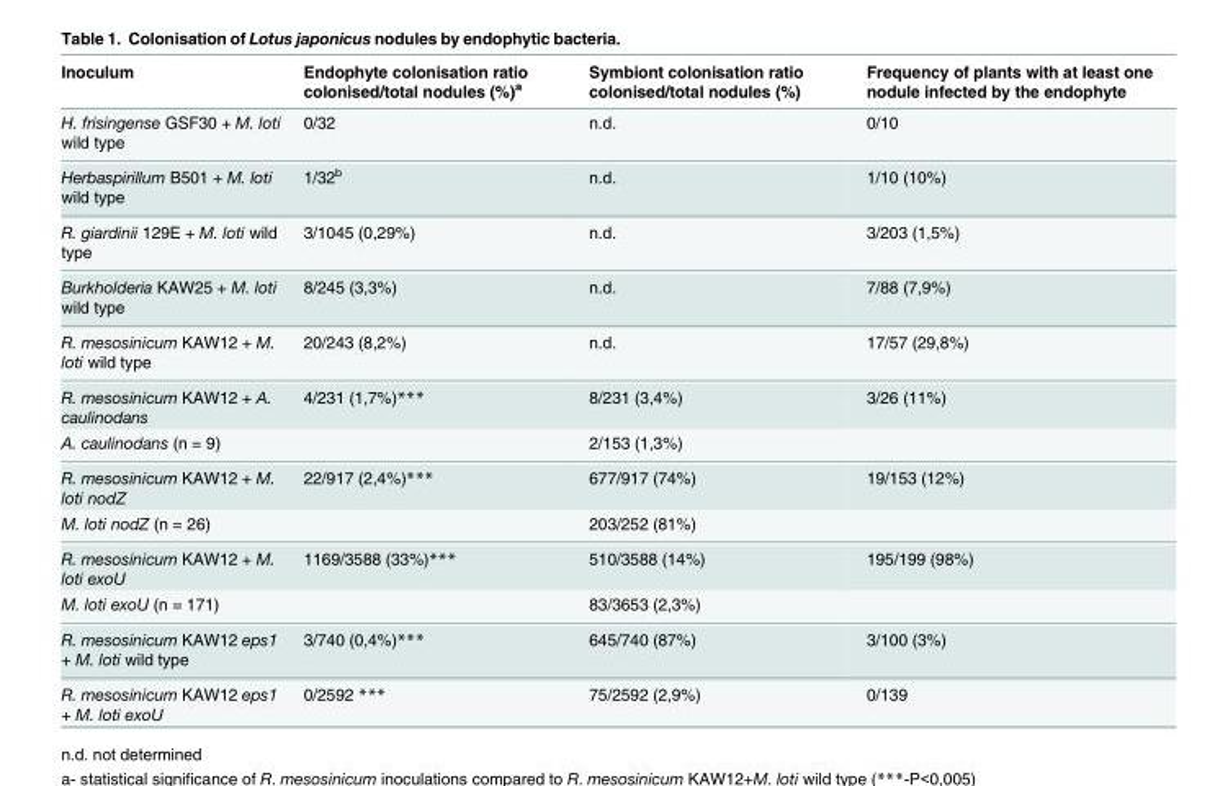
<table><thead><tr><td>Inoculum</td><td>Endophyte colonisation ratio colonised/total nodules (%)<sup>a</sup></td><td>Symbiont colonisation ratio colonised/total nodules (%)</td><td>Frequency of plants with at least one nodule infected by the endophyte</td></tr></thead><tbody><tr><td>H. frisingense GSF30 + M. loti wild type</td><td>0/32</td><td>n.d.</td><td>0/10</td></tr><tr><td>Herbaspirillum B501 + M. loti wild type</td><td>1/32<sup>b</sup></td><td>n.d.</td><td>1/10 (10%)</td></tr><tr><td>R. giardinii 129E + M. loti wild type</td><td>3/1045 (0,29%)</td><td>n.d.</td><td>3/203 (1,5%)</td></tr><tr><td>Burkholderia KAW25 + M. loti wild type</td><td>8/245 (3,3%)</td><td>n.d.</td><td>7/88 (7,9%)</td></tr><tr><td>R. mesosinicum KAW12 + M. loti wild type</td><td>20/243 (8,2%)</td><td>n.d.</td><td>17/57 (29,8%)</td></tr><tr><td>R. mesosinicum KAW12 + A. caulinodans</td><td>4/231 (1,7%)***</td><td>8/231 (3,4%)</td><td>3/26 (11%)</td></tr><tr><td>A. caulinodans (n = 9)</td><td></td><td>2/153 (1,3%)</td><td></td></tr><tr><td>R. mesosinicum KAW12 + M. loti nodZ</td><td>22/917 (2,4%)***</td><td>677/917 (74%)</td><td>19/153 (12%)</td></tr><tr><td>M. loti nodZ (n = 26)</td><td></td><td>203/252 (81%)</td><td></td></tr><tr><td>R. mesosinicum KAW12 + M. loti exoU</td><td>1169/3588 (33%)***</td><td>510/3588 (14%)</td><td>195/199 (98%)</td></tr><tr><td>M. loti exoU (n = 171)</td><td></td><td>83/3653 (2,3%)</td><td></td></tr><tr><td>R. mesosinicum KAW12 eps1 + M. loti wild type</td><td>3/740 (0,4%)***</td><td>645/740 (87%)</td><td>3/100 (3%)</td></tr><tr><td>R. mesosinicum KAW12 eps1 + M. loti exoU</td><td>0/2592 ***</td><td>75/2592 (2,9%)</td><td>0/139</td></tr></tbody></table>